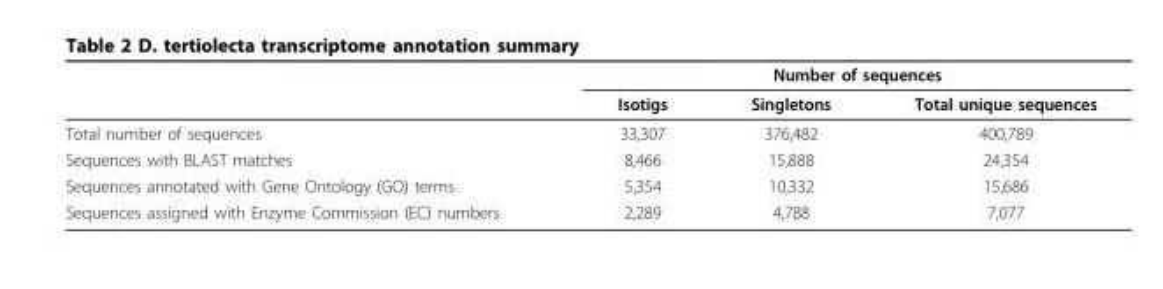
<table><thead><tr><td rowspan="2"></td><td colspan="3">Number of sequences</td></tr><tr><td>Isotigs</td><td>Singletons</td><td>Total unique sequences</td></tr></thead><tbody><tr><td>Total number of sequences</td><td>33,307</td><td>376,482</td><td>400,789</td></tr><tr><td>Sequences with BLAST matches</td><td>8,466</td><td>15,888</td><td>24,354</td></tr><tr><td>Sequences annotated with Gene Ontology (GO) terms</td><td>5,354</td><td>10,332</td><td>15,686</td></tr><tr><td>Sequences assigned with Enzyme Commission (EC) numbers</td><td>2,289</td><td>4,788</td><td>7,077</td></tr></tbody></table>